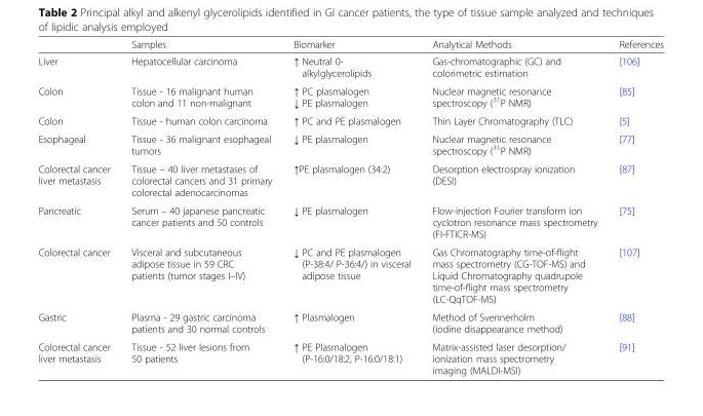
<table><thead><tr><td></td><td>Samples</td><td>Biomarker</td><td>Analytical Methods</td><td>References</td></tr></thead><tbody><tr><td>Liver</td><td>Hepatocellular carcinoma</td><td>↑ Neutral 0- alkylglycerolipids</td><td>Gas-chromatographic (GC) and colorimetric estimation</td><td>[106]</td></tr><tr><td>Colon</td><td>Tissue - 16 malignant human colon and 11 non-malignant</td><td>↑ PC plasmalogen ↓ PE plasmalogen</td><td>Nuclear magnetic resonance spectroscopy (<sup>31</sup>P NMR)</td><td>[85]</td></tr><tr><td>Colon</td><td>Tissue - human colon carcinoma</td><td>↑ PC and PE plasmalogen</td><td>Thin Layer Chromatography (TLC)</td><td>[5]</td></tr><tr><td>Esophageal</td><td>Tissue - 36 malignant esophageal tumors</td><td>↓ PE plasmalogen</td><td>Nuclear magnetic resonance spectroscopy (<sup>31</sup>P NMR)</td><td>[77]</td></tr><tr><td>Colorectal cancer liver metastasis</td><td>Tissue – 40 liver metastases of colorectal cancers and 31 primary colorectal adenocarcinomas</td><td>↑PE plasmalogen (34:2)</td><td>Desorption electrospray ionization (DESI)</td><td>[87]</td></tr><tr><td>Pancreatic</td><td>Serum – 40 japanese pancreatic cancer patients and 50 controls</td><td>↓ PE plasmalogen</td><td>Flow-injection Fourier transform ion cyclotron resonance mass spectrometry (FI-FTICR-MS)</td><td>[75]</td></tr><tr><td>Colorectal cancer</td><td>Visceral and subcutaneous adipose tissue in 59 CRC patients (tumor stages I–IV)</td><td>↓ PC and PE plasmalogen (P-38:4/ P-36:4/) in visceral adipose tissue</td><td>Gas Chromatography time-of-flight mass spectrometry (CG-TOF-MS) and Liquid Chromatography quadrupole time-of-flight mass spectrometry (LC-QqTOF-MS)</td><td>[107]</td></tr><tr><td>Gastric</td><td>Plasma - 29 gastric carcinoma patients and 30 normal controls</td><td>↑ Plasmalogen</td><td>Method of Svennerholm (iodine disappearance method)</td><td>[88]</td></tr><tr><td>Colorectal cancer liver metastasis</td><td>Tissue - 52 liver lesions from 50 patients</td><td>↑ PE Plasmalogen (P-16:0/18:2, P-16:0/18:1)</td><td>Matrix-assisted laser desorption/ ionization mass spectrometry imaging (MALDI-MSI)</td><td>[91]</td></tr></tbody></table>